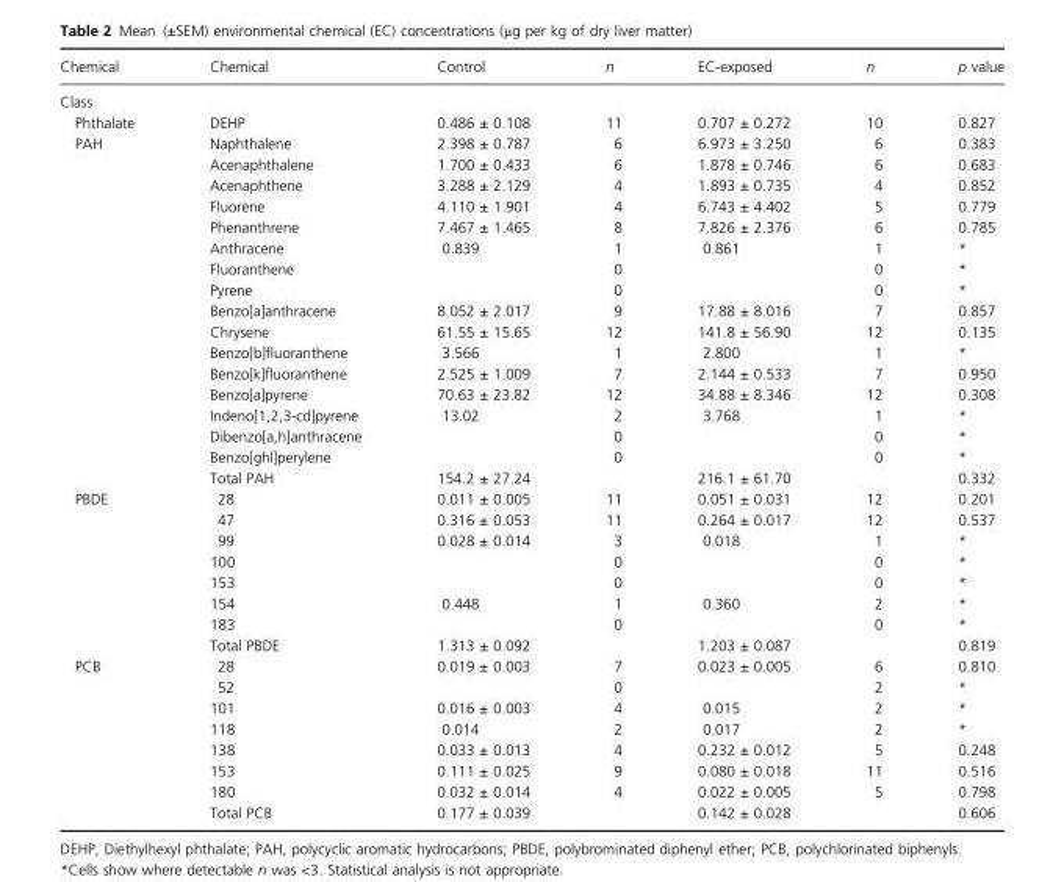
<table><thead><tr><td>Chemical</td><td>Chemical</td><td>Control</td><td>n</td><td>EC-exposed</td><td>n</td><td>p value</td></tr></thead><tbody><tr><td colspan="7">Class</td></tr><tr><td>Phthalate</td><td>DEHP</td><td>0.486 ± 0.108</td><td>11</td><td>0.707 ± 0.272</td><td>10</td><td>0.827</td></tr><tr><td rowspan="17">PAH</td><td>Naphthalene</td><td>2.398 ± 0.787</td><td>6</td><td>6.973 ± 3.250</td><td>6</td><td>0.383</td></tr><tr><td>Acenaphthalene</td><td>1.700 ± 0.433</td><td>6</td><td>1.878 ± 0.746</td><td>6</td><td>0.683</td></tr><tr><td>Acenaphthene</td><td>3.288 ± 2.129</td><td>4</td><td>1.893 ± 0.735</td><td>4</td><td>0.852</td></tr><tr><td>Fluorene</td><td>4.110 ± 1.901</td><td>4</td><td>6.743 ± 4.402</td><td>5</td><td>0.779</td></tr><tr><td>Phenanthrene</td><td>7.467 ± 1.465</td><td>8</td><td>7.826 ± 2.376</td><td>6</td><td>0.785</td></tr><tr><td>Anthracene</td><td>0.839</td><td>1</td><td>0.861</td><td>1</td><td>*</td></tr><tr><td>Fluoranthene</td><td></td><td>0</td><td></td><td>0</td><td>*</td></tr><tr><td>Pyrene</td><td></td><td>0</td><td></td><td>0</td><td>*</td></tr><tr><td>Benzo[a]anthracene</td><td>8.052 ± 2.017</td><td>9</td><td>17.88 ± 8.016</td><td>7</td><td>0.857</td></tr><tr><td>Chrysene</td><td>61.55 ± 15.65</td><td>12</td><td>141.8 ± 56.90</td><td>12</td><td>0.135</td></tr><tr><td>Benzo[b]fluoranthene</td><td>3.566</td><td>1</td><td>2.800</td><td>1</td><td>*</td></tr><tr><td>Benzo[k]fluoranthene</td><td>2.525 ± 1.009</td><td>7</td><td>2.144 ± 0.533</td><td>7</td><td>0.950</td></tr><tr><td>Benzo[a]pyrene</td><td>70.63 ± 23.82</td><td>12</td><td>34.88 ± 8.346</td><td>12</td><td>0.308</td></tr><tr><td>Indeno[1,2,3-cd]pyrene</td><td>13.02</td><td>2</td><td>3.768</td><td>1</td><td>*</td></tr><tr><td>Dibenzo[a,h]anthracene</td><td></td><td>0</td><td></td><td>0</td><td>*</td></tr><tr><td>Benzo[ghl]perylene</td><td></td><td>0</td><td></td><td>0</td><td>*</td></tr><tr><td>Total PAH</td><td>154.2 ± 27.24</td><td></td><td>216.1 ± 61.70</td><td></td><td>0.332</td></tr><tr><td rowspan="8">PBDE</td><td>28</td><td>0.011 ± 0.005</td><td>11</td><td>0.051 ± 0.031</td><td>12</td><td>0.201</td></tr><tr><td>47</td><td>0.316 ± 0.053</td><td>11</td><td>0.264 ± 0.017</td><td>12</td><td>0.537</td></tr><tr><td>99</td><td>0.028 ± 0.014</td><td>3</td><td>0.018</td><td>1</td><td>*</td></tr><tr><td>100</td><td></td><td>0</td><td></td><td>0</td><td>*</td></tr><tr><td>153</td><td></td><td>0</td><td></td><td>0</td><td>*</td></tr><tr><td>154</td><td>0.448</td><td>1</td><td>0.360</td><td>2</td><td>*</td></tr><tr><td>183</td><td></td><td>0</td><td></td><td>0</td><td>*</td></tr><tr><td>Total PBDE</td><td>1.313 ± 0.092</td><td></td><td>1.203 ± 0.087</td><td></td><td>0.819</td></tr><tr><td rowspan="8">PCB</td><td>28</td><td>0.019 ± 0.003</td><td>7</td><td>0.023 ± 0.005</td><td>6</td><td>0.810</td></tr><tr><td>52</td><td></td><td>0</td><td></td><td>2</td><td>*</td></tr><tr><td>101</td><td>0.016 ± 0.003</td><td>4</td><td>0.015</td><td>2</td><td>*</td></tr><tr><td>118</td><td>0.014</td><td>2</td><td>0.017</td><td>2</td><td>*</td></tr><tr><td>138</td><td>0.033 ± 0.013</td><td>4</td><td>0.232 ± 0.012</td><td>5</td><td>0.248</td></tr><tr><td>153</td><td>0.111 ± 0.025</td><td>9</td><td>0.080 ± 0.018</td><td>11</td><td>0.516</td></tr><tr><td>180</td><td>0.032 ± 0.014</td><td>4</td><td>0.022 ± 0.005</td><td>5</td><td>0.798</td></tr><tr><td>Total PCB</td><td>0.177 ± 0.039</td><td></td><td>0.142 ± 0.028</td><td></td><td>0.606</td></tr></tbody></table>